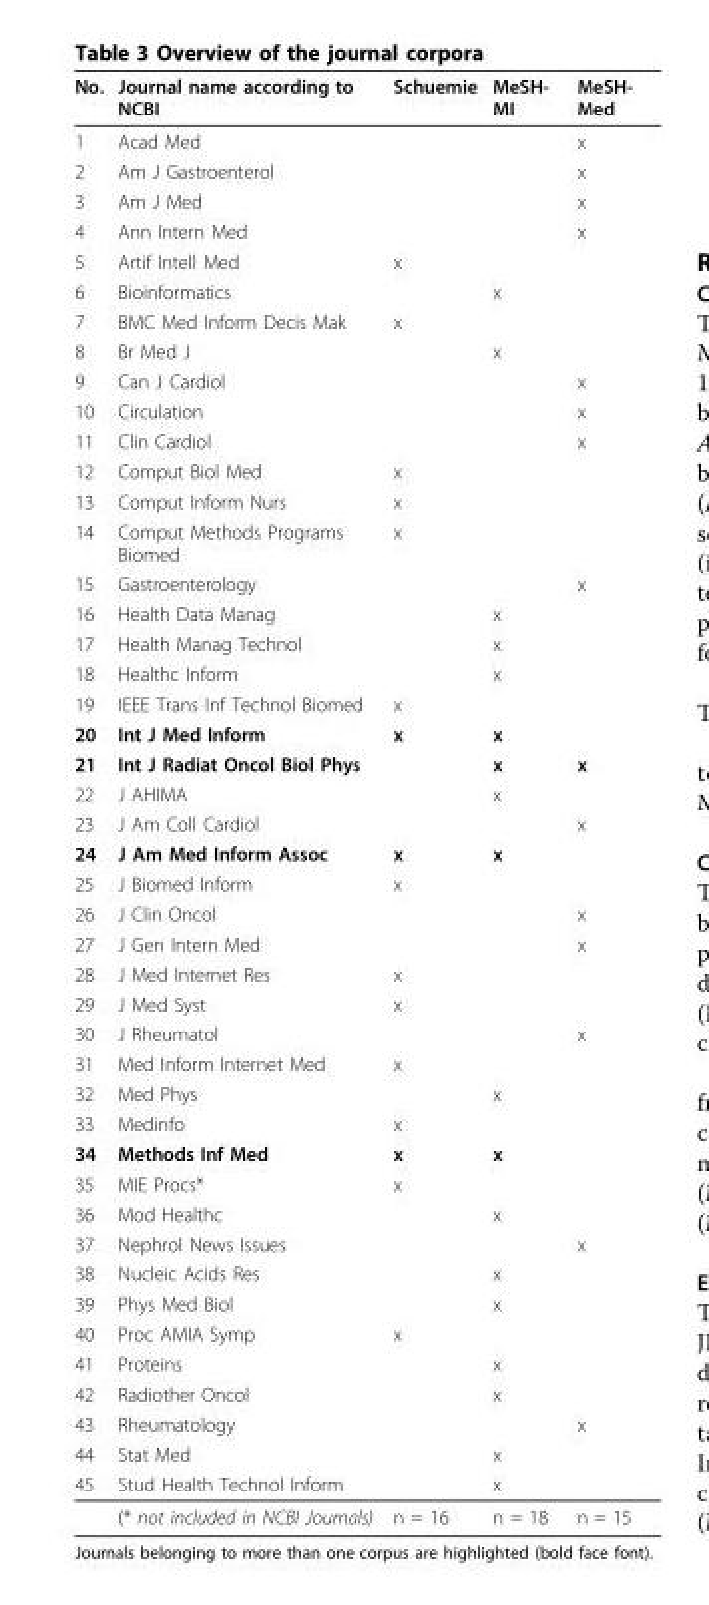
<table><thead><tr><td>No.</td><td>Journal name according to NCBI</td><td>Schuemie</td><td>MeSH- MI</td><td>MeSH- Med</td></tr></thead><tbody><tr><td>1</td><td>Acad Med</td><td></td><td></td><td>x</td></tr><tr><td>2</td><td>Am J Gastroenterol</td><td></td><td></td><td>x</td></tr><tr><td>3</td><td>Am J Med</td><td></td><td></td><td>x</td></tr><tr><td>4</td><td>Ann Intern Med</td><td></td><td></td><td>x</td></tr><tr><td>5</td><td>Artif Intell Med</td><td>x</td><td></td><td></td></tr><tr><td>6</td><td>Bioinformatics</td><td></td><td>x</td><td></td></tr><tr><td>7</td><td>BMC Med Inform Decis Mak</td><td>x</td><td></td><td></td></tr><tr><td>8</td><td>Br Med J</td><td></td><td>x</td><td></td></tr><tr><td>9</td><td>Can J Cardiol</td><td></td><td></td><td>x</td></tr><tr><td>10</td><td>Circulation</td><td></td><td></td><td>x</td></tr><tr><td>11</td><td>Clin Cardiol</td><td></td><td></td><td>x</td></tr><tr><td>12</td><td>Comput Biol Med</td><td>x</td><td></td><td></td></tr><tr><td>13</td><td>Comput Inform Nurs</td><td>x</td><td></td><td></td></tr><tr><td>14</td><td>Comput Methods Programs Biomed</td><td>x</td><td></td><td></td></tr><tr><td>15</td><td>Gastroenterology</td><td></td><td></td><td>x</td></tr><tr><td>16</td><td>Health Data Manag</td><td></td><td>x</td><td></td></tr><tr><td>17</td><td>Health Manag Technol</td><td></td><td>x</td><td></td></tr><tr><td>18</td><td>Healthc Inform</td><td></td><td>x</td><td></td></tr><tr><td>19</td><td>IEEE Trans Inf Technol Biomed</td><td>x</td><td></td><td></td></tr><tr><td>20</td><td>Int J Med Inform</td><td>x</td><td>x</td><td></td></tr><tr><td>21</td><td>Int J Radiat Oncol Biol Phys</td><td></td><td>x</td><td>x</td></tr><tr><td>22</td><td>J AHIMA</td><td></td><td>x</td><td></td></tr><tr><td>23</td><td>J Am Coll Cardiol</td><td></td><td></td><td>x</td></tr><tr><td>24</td><td>J Am Med Inform Assoc</td><td>x</td><td>x</td><td></td></tr><tr><td>25</td><td>J Biomed Inform</td><td>x</td><td></td><td></td></tr><tr><td>26</td><td>J Clin Oncol</td><td></td><td></td><td>x</td></tr><tr><td>27</td><td>J Gen Intern Med</td><td></td><td></td><td>x</td></tr><tr><td>28</td><td>J Med Internet Res</td><td>x</td><td></td><td></td></tr><tr><td>29</td><td>J Med Syst</td><td>x</td><td></td><td></td></tr><tr><td>30</td><td>J Rheumatol</td><td></td><td></td><td>x</td></tr><tr><td>31</td><td>Med Inform Internet Med</td><td>x</td><td></td><td></td></tr><tr><td>32</td><td>Med Phys</td><td></td><td>x</td><td></td></tr><tr><td>33</td><td>Medinfo</td><td>x</td><td></td><td></td></tr><tr><td>34</td><td>Methods Inf Med</td><td>x</td><td>x</td><td></td></tr><tr><td>35</td><td>MIE Procs*</td><td>x</td><td></td><td></td></tr><tr><td>36</td><td>Mod Healthc</td><td></td><td>x</td><td></td></tr><tr><td>37</td><td>Nephrol News Issues</td><td></td><td></td><td>x</td></tr><tr><td>38</td><td>Nucleic Acids Res</td><td></td><td>x</td><td></td></tr><tr><td>39</td><td>Phys Med Biol</td><td></td><td>x</td><td></td></tr><tr><td>40</td><td>Proc AMIA Symp</td><td>x</td><td></td><td></td></tr><tr><td>41</td><td>Proteins</td><td></td><td>x</td><td></td></tr><tr><td>42</td><td>Radiother Oncol</td><td></td><td>x</td><td></td></tr><tr><td>43</td><td>Rheumatology</td><td></td><td></td><td>x</td></tr><tr><td>44</td><td>Stat Med</td><td></td><td>x</td><td></td></tr><tr><td rowspan="2">45</td><td>Stud Health Technol Inform</td><td></td><td>x</td><td></td></tr><tr><td>(* not included in NCBI Journals)</td><td>n = 16</td><td>n = 18</td><td>n = 15</td></tr></tbody></table>